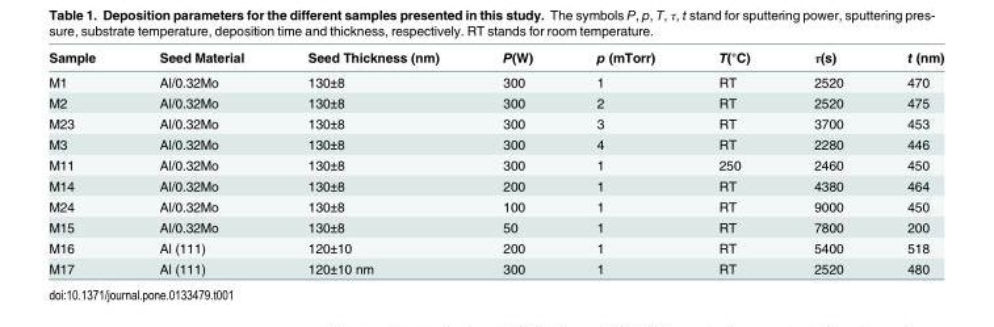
<table><thead><tr><td>Sample</td><td>Seed Material</td><td>Seed Thickness (nm)</td><td>P(W)</td><td>p (mTorr)</td><td>T(°C)</td><td>τ(s)</td><td>t (nm)</td></tr></thead><tbody><tr><td>M1</td><td>Al/0.32Mo</td><td>130±8</td><td>300</td><td>1</td><td>RT</td><td>2520</td><td>470</td></tr><tr><td>M2</td><td>Al/0.32Mo</td><td>130±8</td><td>300</td><td>2</td><td>RT</td><td>2520</td><td>475</td></tr><tr><td>M23</td><td>Al/0.32Mo</td><td>130±8</td><td>300</td><td>3</td><td>RT</td><td>3700</td><td>453</td></tr><tr><td>M3</td><td>Al/0.32Mo</td><td>130±8</td><td>300</td><td>4</td><td>RT</td><td>2280</td><td>446</td></tr><tr><td>M11</td><td>Al/0.32Mo</td><td>130±8</td><td>300</td><td>1</td><td>250</td><td>2460</td><td>450</td></tr><tr><td>M14</td><td>Al/0.32Mo</td><td>130±8</td><td>200</td><td>1</td><td>RT</td><td>4380</td><td>464</td></tr><tr><td>M24</td><td>Al/0.32Mo</td><td>130±8</td><td>100</td><td>1</td><td>RT</td><td>9000</td><td>450</td></tr><tr><td>M15</td><td>Al/0.32Mo</td><td>130±8</td><td>50</td><td>1</td><td>RT</td><td>7800</td><td>200</td></tr><tr><td>M16</td><td>Al (111)</td><td>120±10</td><td>200</td><td>1</td><td>RT</td><td>5400</td><td>518</td></tr><tr><td>M17</td><td>Al (111)</td><td>120±10 nm</td><td>300</td><td>1</td><td>RT</td><td>2520</td><td>480</td></tr></tbody></table>